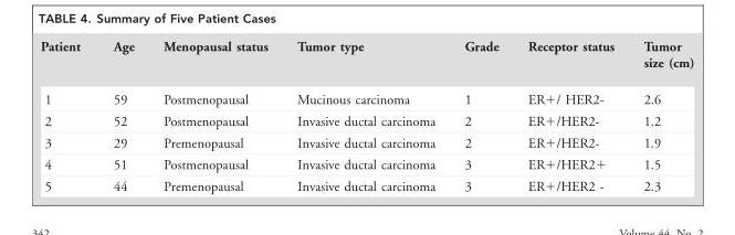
<table><thead><tr><td>Patient</td><td>Age</td><td>Menopausal status</td><td>Tumor type</td><td>Grade</td><td>Receptor status</td><td>Tumor size (cm)</td></tr></thead><tbody><tr><td>1</td><td>59</td><td>Postmenopausal</td><td>Mucinous carcinoma</td><td>1</td><td>ER+/ HER2-</td><td>2.6</td></tr><tr><td>2</td><td>52</td><td>Postmenopausal</td><td>Invasive ductal carcinoma</td><td>2</td><td>ER+/HER2-</td><td>1.2</td></tr><tr><td>3</td><td>29</td><td>Premenopausal</td><td>Invasive ductal carcinoma</td><td>2</td><td>ER+/HER2-</td><td>1.9</td></tr><tr><td>4</td><td>51</td><td>Postmenopausal</td><td>Invasive ductal carcinoma</td><td>3</td><td>ER+/HER2+</td><td>1.5</td></tr><tr><td>5</td><td>44</td><td>Premenopausal</td><td>Invasive ductal carcinoma</td><td>3</td><td>ER+/HER2 -</td><td>2.3</td></tr></tbody></table>